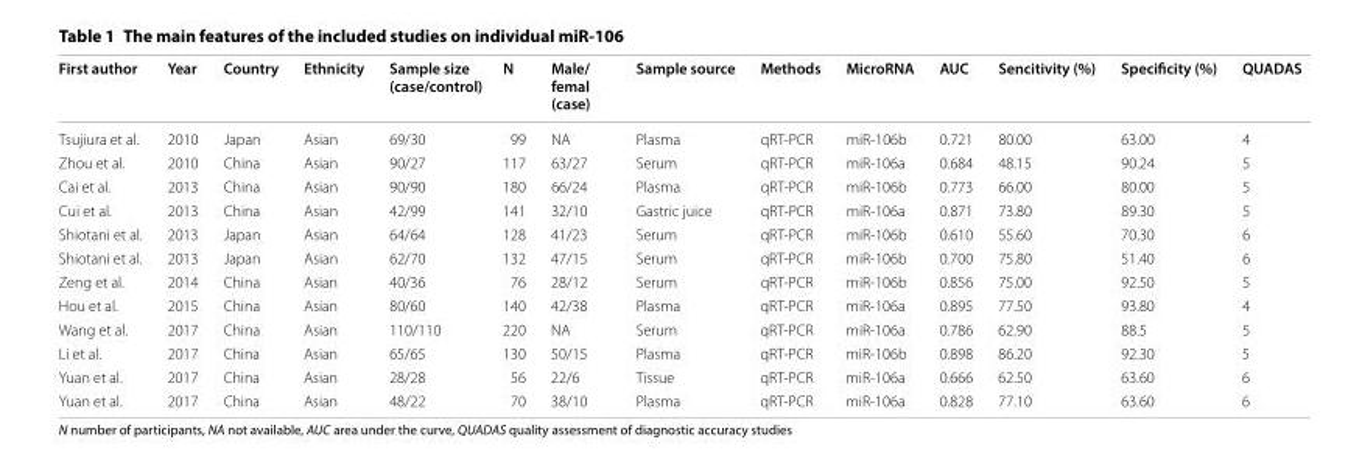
<table><thead><tr><td>First author</td><td>Year</td><td>Country</td><td>Ethnicity</td><td>Sample size (case/control)</td><td>N</td><td>Male/ femal (case)</td><td>Sample source</td><td>Methods</td><td>MicroRNA</td><td>AUC</td><td>Sencitivity (%)</td><td>Specificity (%)</td><td>QUADAS</td></tr></thead><tbody><tr><td>Tsujiura et al.</td><td>2010</td><td>Japan</td><td>Asian</td><td>69/30</td><td>99</td><td>NA</td><td>Plasma</td><td>qRT-PCR</td><td>miR-106b</td><td>0.721</td><td>80.00</td><td>63.00</td><td>4</td></tr><tr><td>Zhou et al.</td><td>2010</td><td>China</td><td>Asian</td><td>90/27</td><td>117</td><td>63/27</td><td>Serum</td><td>qRT-PCR</td><td>miR-106a</td><td>0.684</td><td>48.15</td><td>90.24</td><td>5</td></tr><tr><td>Cai et al.</td><td>2013</td><td>China</td><td>Asian</td><td>90/90</td><td>180</td><td>66/24</td><td>Plasma</td><td>qRT-PCR</td><td>miR-106b</td><td>0.773</td><td>66.00</td><td>80.00</td><td>5</td></tr><tr><td>Cui et al.</td><td>2013</td><td>China</td><td>Asian</td><td>42/99</td><td>141</td><td>32/10</td><td>Gastric juice</td><td>qRT-PCR</td><td>miR-106a</td><td>0.871</td><td>73.80</td><td>89.30</td><td>5</td></tr><tr><td>Shiotani et al.</td><td>2013</td><td>Japan</td><td>Asian</td><td>64/64</td><td>128</td><td>41/23</td><td>Serum</td><td>qRT-PCR</td><td>miR-106b</td><td>0.610</td><td>55.60</td><td>70.30</td><td>6</td></tr><tr><td>Shiotani et al.</td><td>2013</td><td>Japan</td><td>Asian</td><td>62/70</td><td>132</td><td>47/15</td><td>Serum</td><td>qRT-PCR</td><td>miR-106b</td><td>0.700</td><td>75.80</td><td>51.40</td><td>6</td></tr><tr><td>Zeng et al.</td><td>2014</td><td>China</td><td>Asian</td><td>40/36</td><td>76</td><td>28/12</td><td>Serum</td><td>qRT-PCR</td><td>miR-106b</td><td>0.856</td><td>75.00</td><td>92.50</td><td>5</td></tr><tr><td>Hou et al.</td><td>2015</td><td>China</td><td>Asian</td><td>80/60</td><td>140</td><td>42/38</td><td>Plasma</td><td>qRT-PCR</td><td>miR-106a</td><td>0.895</td><td>77.50</td><td>93.80</td><td>4</td></tr><tr><td>Wang et al.</td><td>2017</td><td>China</td><td>Asian</td><td>110/110</td><td>220</td><td>NA</td><td>Serum</td><td>qRT-PCR</td><td>miR-106a</td><td>0.786</td><td>62.90</td><td>88.5</td><td>5</td></tr><tr><td>Li et al.</td><td>2017</td><td>China</td><td>Asian</td><td>65/65</td><td>130</td><td>50/15</td><td>Plasma</td><td>qRT-PCR</td><td>miR-106b</td><td>0.898</td><td>86.20</td><td>92.30</td><td>5</td></tr><tr><td>Yuan et al.</td><td>2017</td><td>China</td><td>Asian</td><td>28/28</td><td>56</td><td>22/6</td><td>Tissue</td><td>qRT-PCR</td><td>miR-106a</td><td>0.666</td><td>62.50</td><td>63.60</td><td>6</td></tr><tr><td>Yuan et al.</td><td>2017</td><td>China</td><td>Asian</td><td>48/22</td><td>70</td><td>38/10</td><td>Plasma</td><td>qRT-PCR</td><td>miR-106a</td><td>0.828</td><td>77.10</td><td>63.60</td><td>6</td></tr></tbody></table>